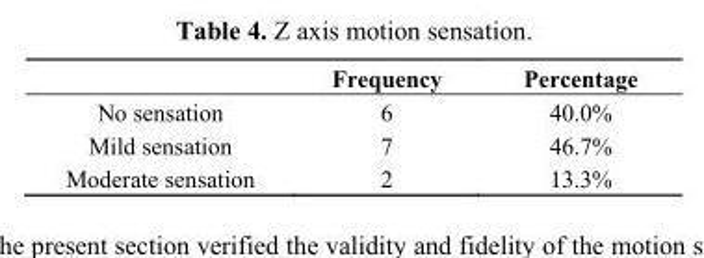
<table><thead><tr><td></td><td>Frequency</td><td>Percentage</td></tr></thead><tbody><tr><td>No sensation</td><td>6</td><td>40.0%</td></tr><tr><td>Mild sensation</td><td>7</td><td>46.7%</td></tr><tr><td>Moderate sensation</td><td>2</td><td>13.3%</td></tr></tbody></table>